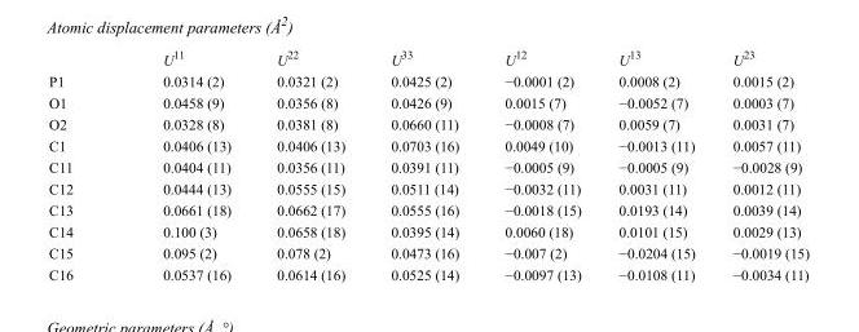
<table><thead><tr><td></td><td>U<sup>11</sup></td><td>U<sup>22</sup></td><td>U<sup>33</sup></td><td>U<sup>12</sup></td><td>U<sup>13</sup></td><td>U<sup>23</sup></td></tr></thead><tbody><tr><td>P1</td><td>0.0314 (2)</td><td>0.0321 (2)</td><td>0.0425 (2)</td><td>−0.0001 (2)</td><td>0.0008 (2)</td><td>0.0015 (2)</td></tr><tr><td>O1</td><td>0.0458 (9)</td><td>0.0356 (8)</td><td>0.0426 (9)</td><td>0.0015 (7)</td><td>−0.0052 (7)</td><td>0.0003 (7)</td></tr><tr><td>O2</td><td>0.0328 (8)</td><td>0.0381 (8)</td><td>0.0660 (11)</td><td>−0.0008 (7)</td><td>0.0059 (7)</td><td>0.0031 (7)</td></tr><tr><td>C1</td><td>0.0406 (13)</td><td>0.0406 (13)</td><td>0.0703 (16)</td><td>0.0049 (10)</td><td>−0.0013 (11)</td><td>0.0057 (11)</td></tr><tr><td>C11</td><td>0.0404 (11)</td><td>0.0356 (11)</td><td>0.0391 (11)</td><td>−0.0005 (9)</td><td>−0.0005 (9)</td><td>−0.0028 (9)</td></tr><tr><td>C12</td><td>0.0444 (13)</td><td>0.0555 (15)</td><td>0.0511 (14)</td><td>−0.0032 (11)</td><td>0.0031 (11)</td><td>0.0012 (11)</td></tr><tr><td>C13</td><td>0.0661 (18)</td><td>0.0662 (17)</td><td>0.0555 (16)</td><td>−0.0018 (15)</td><td>0.0193 (14)</td><td>0.0039 (14)</td></tr><tr><td>C14</td><td>0.100 (3)</td><td>0.0658 (18)</td><td>0.0395 (14)</td><td>0.0060 (18)</td><td>0.0101 (15)</td><td>0.0029 (13)</td></tr><tr><td>C15</td><td>0.095 (2)</td><td>0.078 (2)</td><td>0.0473 (16)</td><td>−0.007 (2)</td><td>−0.0204 (15)</td><td>−0.0019 (15)</td></tr><tr><td>C16</td><td>0.0537 (16)</td><td>0.0614 (16)</td><td>0.0525 (14)</td><td>−0.0097 (13)</td><td>−0.0108 (11)</td><td>−0.0034 (11)</td></tr></tbody></table>